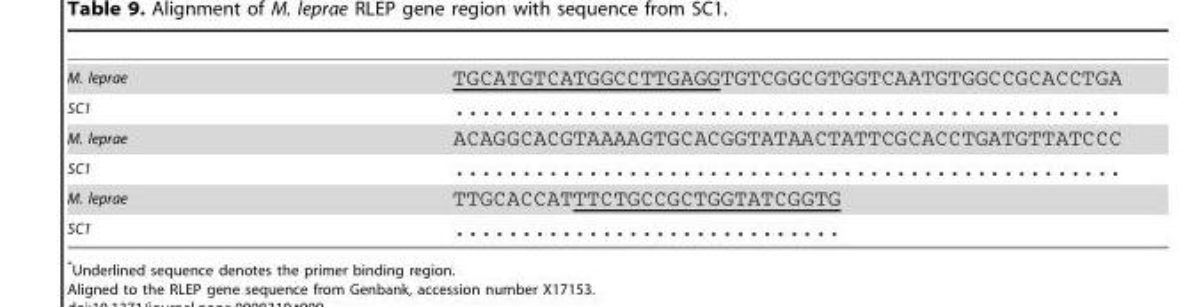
<table><tbody><tr><td>M. leprae</td><td>TGCATGTCATGGCCTTGAGGTGTCGGCGTGGTCAATGTGGCCGCACCTGA</td></tr><tr><td>SC1</td><td>..................................................</td></tr><tr><td>M. leprae</td><td>ACAGGCACGTAAAAGTGCACGGTATAACTATTCGCACCTGATGTTATCCC</td></tr><tr><td>SC1</td><td>..................................................</td></tr><tr><td>M. leprae</td><td>TTGCACCATTTCTGCCGCTGGTATCGGTG</td></tr><tr><td>SC1</td><td>.............................</td></tr></tbody></table>